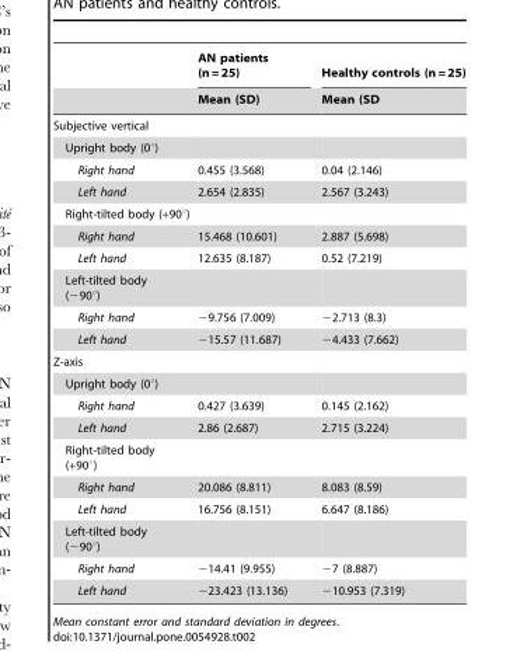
<table><thead><tr><td rowspan="2"></td><td rowspan="2">AN patients (n = 25) Mean (SD)</td><td rowspan="2">Healthy controls (n = 25) Mean (SD</td></tr><tr></tr></thead><tbody><tr><td colspan="3">Subjective vertical</td></tr><tr><td colspan="3">Upright body (0°)</td></tr><tr><td>Right hand</td><td>0.455 (3.568)</td><td>0.04 (2.146)</td></tr><tr><td>Left hand</td><td>2.654 (2.835)</td><td>2.567 (3.243)</td></tr><tr><td colspan="3">Right-tilted body (+90°)</td></tr><tr><td>Right hand</td><td>15.468 (10.601)</td><td>2.887 (5.698)</td></tr><tr><td>Left hand</td><td>12.635 (8.187)</td><td>0.52 (7.219)</td></tr><tr><td colspan="3">Left-tilted body (−90°)</td></tr><tr><td>Right hand</td><td>−9.756 (7.009)</td><td>−2.713 (8.3)</td></tr><tr><td>Left hand</td><td>−15.57 (11.687)</td><td>−4.433 (7.662)</td></tr><tr><td colspan="3">Z-axis</td></tr><tr><td colspan="3">Upright body (0°)</td></tr><tr><td>Right hand</td><td>0.427 (3.639)</td><td>0.145 (2.162)</td></tr><tr><td>Left hand</td><td>2.86 (2.687)</td><td>2.715 (3.224)</td></tr><tr><td colspan="3">Right-tilted body (+90°)</td></tr><tr><td>Right hand</td><td>20.086 (8.811)</td><td>8.083 (8.59)</td></tr><tr><td>Left hand</td><td>16.756 (8.151)</td><td>6.647 (8.186)</td></tr><tr><td colspan="3">Left-tilted body (−90°)</td></tr><tr><td>Right hand</td><td>−14.41 (9.955)</td><td>−7 (8.887)</td></tr><tr><td>Left hand</td><td>−23.423 (13.136)</td><td>−10.953 (7.319)</td></tr></tbody></table>